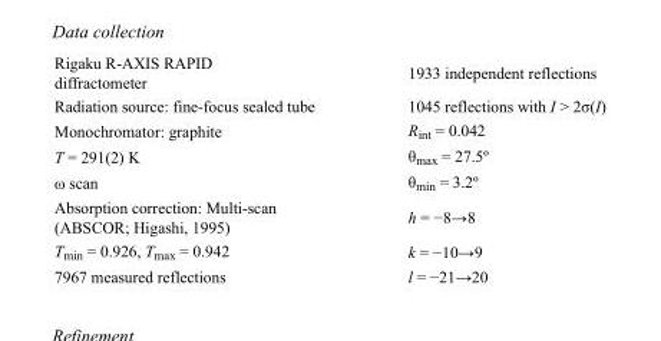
<table><tbody><tr><td>Rigaku R-AXIS RAPID diffractometer</td><td>1933 independent reflections</td></tr><tr><td>Radiation source: fine-focus sealed tube</td><td>1045 reflections with I &gt; 2σ(I)</td></tr><tr><td>Monochromator: graphite</td><td>R<sub>int</sub> = 0.042</td></tr><tr><td>T = 291(2) K</td><td>θ<sub>max</sub> = 27.5º</td></tr><tr><td>ω scan</td><td>θ<sub>min</sub> = 3.2º</td></tr><tr><td>Absorption correction: Multi-scan (ABSCOR; Higashi, 1995)</td><td>h = −8→8</td></tr><tr><td>T<sub>min</sub> = 0.926, T<sub>max</sub> = 0.942</td><td>k = −10→9</td></tr><tr><td>7967 measured reflections</td><td>l = −21→20</td></tr></tbody></table>